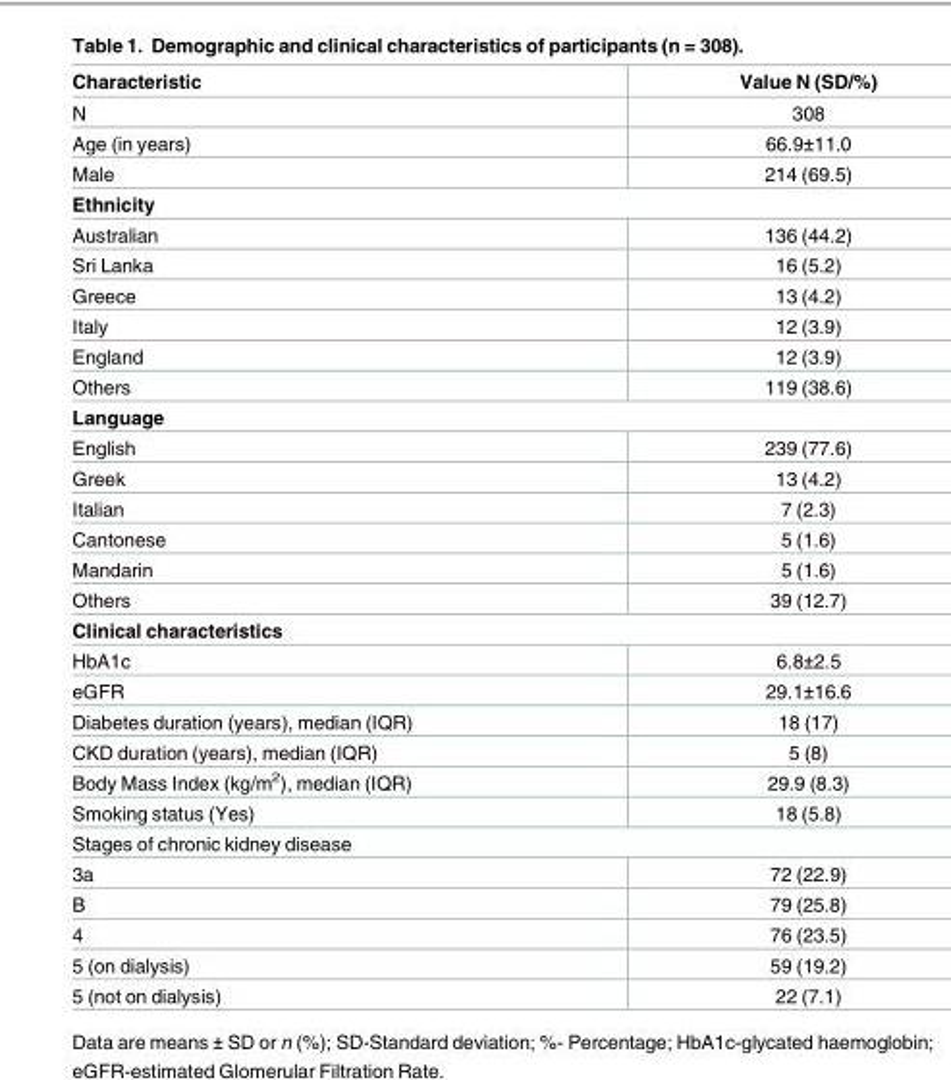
<table><thead><tr><td>Characteristic</td><td>Value N (SD/%)</td></tr></thead><tbody><tr><td>N</td><td>308</td></tr><tr><td>Age (in years)</td><td>66.9±11.0</td></tr><tr><td>Male</td><td>214 (69.5)</td></tr><tr><td colspan="2">Ethnicity</td></tr><tr><td>Australian</td><td>136 (44.2)</td></tr><tr><td>Sri Lanka</td><td>16 (5.2)</td></tr><tr><td>Greece</td><td>13 (4.2)</td></tr><tr><td>Italy</td><td>12 (3.9)</td></tr><tr><td>England</td><td>12 (3.9)</td></tr><tr><td>Others</td><td>119 (38.6)</td></tr><tr><td colspan="2">Language</td></tr><tr><td>English</td><td>239 (77.6)</td></tr><tr><td>Greek</td><td>13 (4.2)</td></tr><tr><td>Italian</td><td>7 (2.3)</td></tr><tr><td>Cantonese</td><td>5 (1.6)</td></tr><tr><td>Mandarin</td><td>5 (1.6)</td></tr><tr><td>Others</td><td>39 (12.7)</td></tr><tr><td colspan="2">Clinical characteristics</td></tr><tr><td>HbA1c</td><td>6.8±2.5</td></tr><tr><td>eGFR</td><td>29.1±16.6</td></tr><tr><td>Diabetes duration (years), median (IQR)</td><td>18 (17)</td></tr><tr><td>CKD duration (years), median (IQR)</td><td>5 (8)</td></tr><tr><td>Body Mass Index (kg/m<sup>2</sup>), median (IQR)</td><td>29.9 (8.3)</td></tr><tr><td>Smoking status (Yes)</td><td>18 (5.8)</td></tr><tr><td colspan="2">Stages of chronic kidney disease</td></tr><tr><td>3a</td><td>72 (22.9)</td></tr><tr><td>B</td><td>79 (25.8)</td></tr><tr><td>4</td><td>76 (23.5)</td></tr><tr><td>5 (on dialysis)</td><td>59 (19.2)</td></tr><tr><td>5 (not on dialysis)</td><td>22 (7.1)</td></tr></tbody></table>